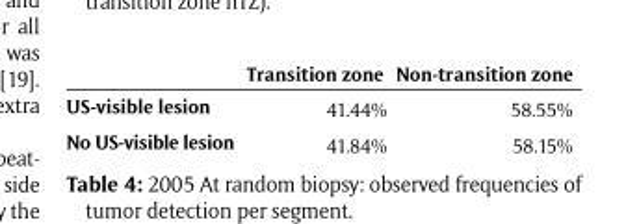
<table><thead><tr><td></td><td>Transition zone</td><td>Non-transition zone</td></tr></thead><tbody><tr><td>US-visible lesion</td><td>41.44%</td><td>58.55%</td></tr><tr><td>No US-visible lesion</td><td>41.84%</td><td>58.15%</td></tr></tbody></table>